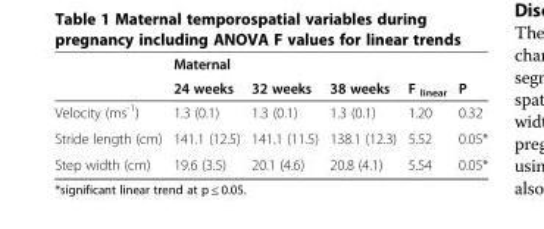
<table><thead><tr><td></td><td>Maternal 24 weeks</td><td>32 weeks</td><td>38 weeks</td><td>F <sub>linear</sub></td><td>P</td></tr></thead><tbody><tr><td>Velocity (ms<sup>-1</sup>)</td><td>1.3 (0.1)</td><td>1.3 (0.1)</td><td>1.3 (0.1)</td><td>1.20</td><td>0.32</td></tr><tr><td>Stride length (cm)</td><td>141.1 (12.5)</td><td>141.1 (11.5)</td><td>138.1 (12.3)</td><td>5.52</td><td>0.05*</td></tr><tr><td>Step width (cm)</td><td>19.6 (3.5)</td><td>20.1 (4.6)</td><td>20.8 (4.1)</td><td>5.54</td><td>0.05*</td></tr></tbody></table>